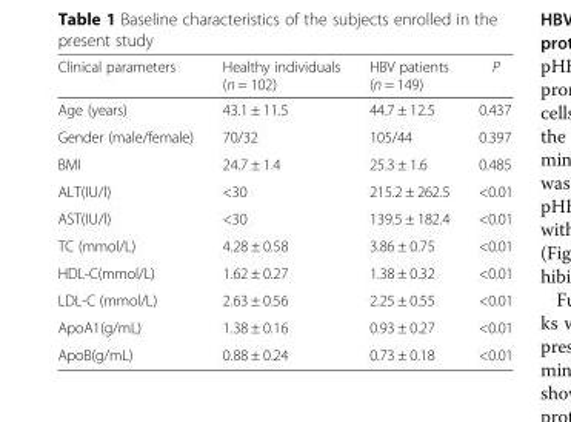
<table><thead><tr><td>Clinical parameters</td><td>Healthy individuals (n = 102)</td><td>HBV patients (n = 149)</td><td>P</td></tr></thead><tbody><tr><td>Age (years)</td><td>43.1 ± 11.5</td><td>44.7 ± 12.5</td><td>0.437</td></tr><tr><td>Gender (male/female)</td><td>70/32</td><td>105/44</td><td>0.397</td></tr><tr><td>BMI</td><td>24.7 ± 1.4</td><td>25.3 ± 1.6</td><td>0.485</td></tr><tr><td>ALT(IU/l)</td><td>&lt;30</td><td>215.2 ± 262.5</td><td>&lt;0.01</td></tr><tr><td>AST(IU/l)</td><td>&lt;30</td><td>139.5 ± 182.4</td><td>&lt;0.01</td></tr><tr><td>TC (mmol/L)</td><td>4.28 ± 0.58</td><td>3.86 ± 0.75</td><td>&lt;0.01</td></tr><tr><td>HDL-C(mmol/L)</td><td>1.62 ± 0.27</td><td>1.38 ± 0.32</td><td>&lt;0.01</td></tr><tr><td>LDL-C (mmol/L)</td><td>2.63 ± 0.56</td><td>2.25 ± 0.55</td><td>&lt;0.01</td></tr><tr><td>ApoA1(g/mL)</td><td>1.38 ± 0.16</td><td>0.93 ± 0.27</td><td>&lt;0.01</td></tr><tr><td>ApoB(g/mL)</td><td>0.88 ± 0.24</td><td>0.73 ± 0.18</td><td>&lt;0.01</td></tr></tbody></table>